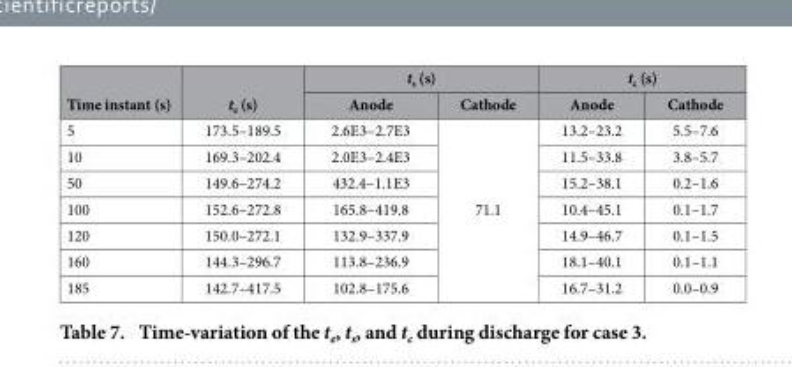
<table><thead><tr><td rowspan="2">Time instant (s)</td><td rowspan="2">t<sub>e</sub> (s)</td><td colspan="2">t<sub>s</sub> (s)</td><td colspan="2">t<sub>c</sub> (s)</td></tr><tr><td>Anode</td><td>Cathode</td><td>Anode</td><td>Cathode</td></tr></thead><tbody><tr><td>5</td><td>173.5–189.5</td><td>2.6E3–2.7E3</td><td rowspan="7">71.1</td><td>13.2–23.2</td><td>5.5–7.6</td></tr><tr><td>10</td><td>169.3–202.4</td><td>2.0E3–2.4E3</td><td>11.5–33.8</td><td>3.8–5.7</td></tr><tr><td>50</td><td>149.6–274.2</td><td>432.4–1.1E3</td><td>15.2–38.1</td><td>0.2–1.6</td></tr><tr><td>100</td><td>152.6–272.8</td><td>165.8–419.8</td><td>10.4–45.1</td><td>0.1–1.7</td></tr><tr><td>120</td><td>150.0–272.1</td><td>132.9–337.9</td><td>14.9–46.7</td><td>0.1–1.5</td></tr><tr><td>160</td><td>144.3–296.7</td><td>113.8–236.9</td><td>18.1–40.1</td><td>0.1–1.1</td></tr><tr><td>185</td><td>142.7–417.5</td><td>102.8–175.6</td><td>16.7–31.2</td><td>0.0–0.9</td></tr></tbody></table>